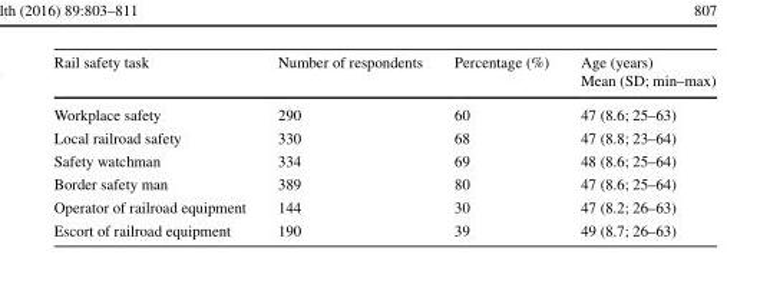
<table><thead><tr><td>Rail safety task</td><td>Number of respondents</td><td>Percentage (%)</td><td>Age (years) Mean (SD; min–max)</td></tr></thead><tbody><tr><td>Workplace safety</td><td>290</td><td>60</td><td>47 (8.6; 25–63)</td></tr><tr><td>Local railroad safety</td><td>330</td><td>68</td><td>47 (8.8; 23–64)</td></tr><tr><td>Safety watchman</td><td>334</td><td>69</td><td>48 (8.6; 25–64)</td></tr><tr><td>Border safety man</td><td>389</td><td>80</td><td>47 (8.6; 25–64)</td></tr><tr><td>Operator of railroad equipment</td><td>144</td><td>30</td><td>47 (8.2; 26–63)</td></tr><tr><td>Escort of railroad equipment</td><td>190</td><td>39</td><td>49 (8.7; 26–63)</td></tr></tbody></table>